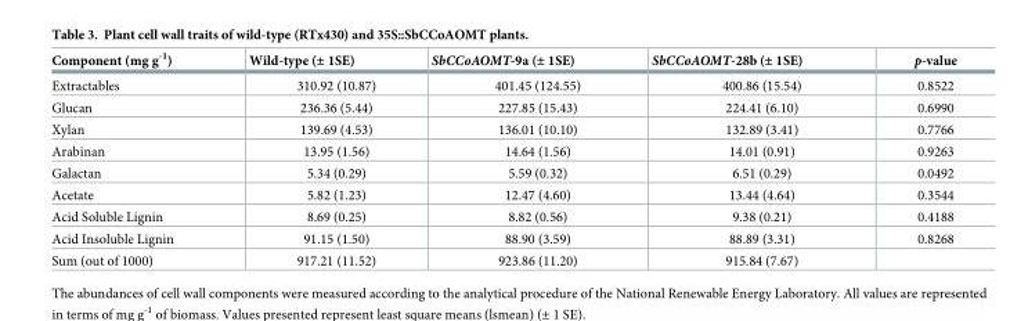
<table><thead><tr><td>Component (mg g<sup>-1</sup>)</td><td>Wild-type (± 1SE)</td><td>SbCCoAOMT-9a (± 1SE)</td><td>SbCCoAOMT-28b (± 1SE)</td><td>p-value</td></tr></thead><tbody><tr><td>Extractables</td><td>310.92 (10.87)</td><td>401.45 (124.55)</td><td>400.86 (15.54)</td><td>0.8522</td></tr><tr><td>Glucan</td><td>236.36 (5.44)</td><td>227.85 (15.43)</td><td>224.41 (6.10)</td><td>0.6990</td></tr><tr><td>Xylan</td><td>139.69 (4.53)</td><td>136.01 (10.10)</td><td>132.89 (3.41)</td><td>0.7766</td></tr><tr><td>Arabinan</td><td>13.95 (1.56)</td><td>14.64 (1.56)</td><td>14.01 (0.91)</td><td>0.9263</td></tr><tr><td>Galactan</td><td>5.34 (0.29)</td><td>5.59 (0.32)</td><td>6.51 (0.29)</td><td>0.0492</td></tr><tr><td>Acetate</td><td>5.82 (1.23)</td><td>12.47 (4.60)</td><td>13.44 (4.64)</td><td>0.3544</td></tr><tr><td>Acid Soluble Lignin</td><td>8.69 (0.25)</td><td>8.82 (0.56)</td><td>9.38 (0.21)</td><td>0.4188</td></tr><tr><td>Acid Insoluble Lignin</td><td>91.15 (1.50)</td><td>88.90 (3.59)</td><td>88.89 (3.31)</td><td>0.8268</td></tr><tr><td>Sum (out of 1000)</td><td>917.21 (11.52)</td><td>923.86 (11.20)</td><td>915.84 (7.67)</td><td></td></tr></tbody></table>